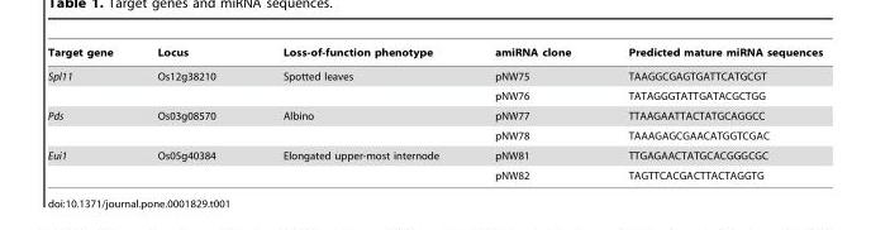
<table><thead><tr><td>Target gene</td><td>Locus</td><td>Loss-of-function phenotype</td><td>amiRNA clone</td><td>Predicted mature miRNA sequences</td></tr></thead><tbody><tr><td rowspan="2">Spl11</td><td>Os12g38210</td><td>Spotted leaves</td><td>pNW75</td><td>TAAGGCGAGTGATTCATGCGT</td></tr><tr><td></td><td></td><td>pNW76</td><td>TATAGGGTATTGATACGCTGG</td></tr><tr><td rowspan="2">Pds</td><td>Os03g08570</td><td>Albino</td><td>pNW77</td><td>TTAAGAATTACTATGCAGGCC</td></tr><tr><td></td><td></td><td>pNW78</td><td>TAAAGAGCGAACATGGTCGAC</td></tr><tr><td rowspan="2">Eui1</td><td>Os05g40384</td><td>Elongated upper-most internode</td><td>pNW81</td><td>TTGAGAACTATGCACGGGCGC</td></tr><tr><td></td><td></td><td>pNW82</td><td>TAGTTCACGACTTACTAGGTG</td></tr></tbody></table>